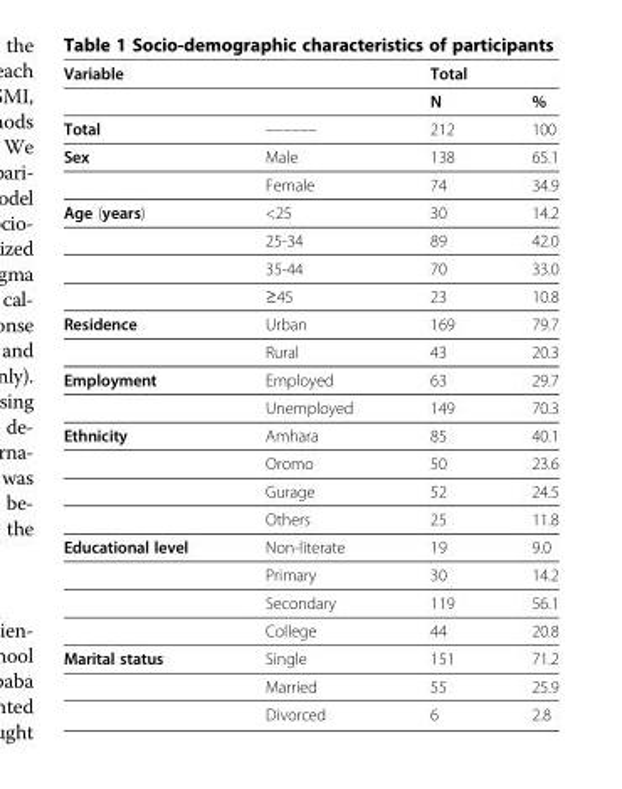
<table><thead><tr><td colspan="2">Variable</td><td colspan="2">Total</td></tr><tr><td></td><td></td><td>N</td><td>%</td></tr></thead><tbody><tr><td>Total</td><td>––––––</td><td>212</td><td>100</td></tr><tr><td rowspan="2">Sex</td><td>Male</td><td>138</td><td>65.1</td></tr><tr><td>Female</td><td>74</td><td>34.9</td></tr><tr><td rowspan="4">Age (years)</td><td>&lt;25</td><td>30</td><td>14.2</td></tr><tr><td>25-34</td><td>89</td><td>42.0</td></tr><tr><td>35-44</td><td>70</td><td>33.0</td></tr><tr><td>≥45</td><td>23</td><td>10.8</td></tr><tr><td rowspan="2">Residence</td><td>Urban</td><td>169</td><td>79.7</td></tr><tr><td>Rural</td><td>43</td><td>20.3</td></tr><tr><td rowspan="2">Employment</td><td>Employed</td><td>63</td><td>29.7</td></tr><tr><td>Unemployed</td><td>149</td><td>70.3</td></tr><tr><td rowspan="4">Ethnicity</td><td>Amhara</td><td>85</td><td>40.1</td></tr><tr><td>Oromo</td><td>50</td><td>23.6</td></tr><tr><td>Gurage</td><td>52</td><td>24.5</td></tr><tr><td>Others</td><td>25</td><td>11.8</td></tr><tr><td rowspan="4">Educational level</td><td>Non-literate</td><td>19</td><td>9.0</td></tr><tr><td>Primary</td><td>30</td><td>14.2</td></tr><tr><td>Secondary</td><td>119</td><td>56.1</td></tr><tr><td>College</td><td>44</td><td>20.8</td></tr><tr><td rowspan="3">Marital status</td><td>Single</td><td>151</td><td>71.2</td></tr><tr><td>Married</td><td>55</td><td>25.9</td></tr><tr><td>Divorced</td><td>6</td><td>2.8</td></tr></tbody></table>